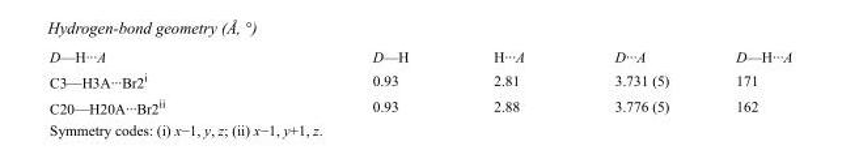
<table><tbody><tr><td>D—H···A</td><td>D—H</td><td>H···A</td><td>D···A</td><td>D—H···A</td></tr><tr><td>C3—H3A···Br2<sup>i</sup></td><td>0.93</td><td>2.81</td><td>3.731 (5)</td><td>171</td></tr><tr><td>C20—H20A···Br2<sup>ii</sup></td><td>0.93</td><td>2.88</td><td>3.776 (5)</td><td>162</td></tr></tbody></table>